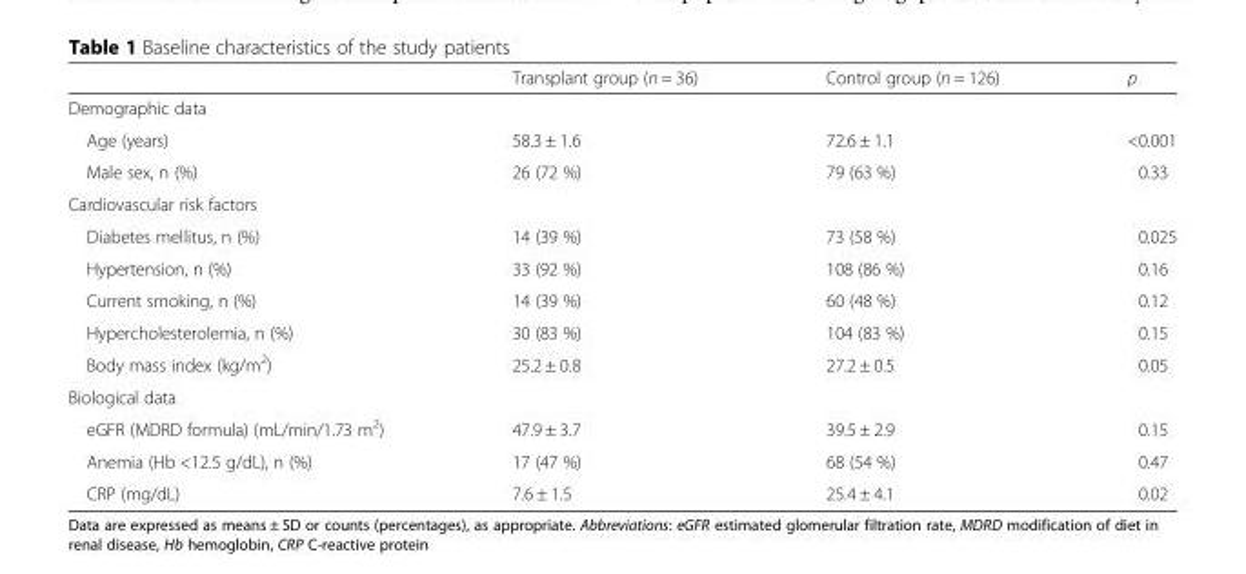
<table><thead><tr><td></td><td>Transplant group (n = 36)</td><td>Control group (n = 126)</td><td>p</td></tr></thead><tbody><tr><td colspan="4">Demographic data</td></tr><tr><td>Age (years)</td><td>58.3 ± 1.6</td><td>72.6 ± 1.1</td><td>&lt;0.001</td></tr><tr><td>Male sex, n (%)</td><td>26 (72 %)</td><td>79 (63 %)</td><td>0.33</td></tr><tr><td colspan="4">Cardiovascular risk factors</td></tr><tr><td>Diabetes mellitus, n (%)</td><td>14 (39 %)</td><td>73 (58 %)</td><td>0.025</td></tr><tr><td>Hypertension, n (%)</td><td>33 (92 %)</td><td>108 (86 %)</td><td>0.16</td></tr><tr><td>Current smoking, n (%)</td><td>14 (39 %)</td><td>60 (48 %)</td><td>0.12</td></tr><tr><td>Hypercholesterolemia, n (%)</td><td>30 (83 %)</td><td>104 (83 %)</td><td>0.15</td></tr><tr><td>Body mass index (kg/m<sup>2</sup>)</td><td>25.2 ± 0.8</td><td>27.2 ± 0.5</td><td>0.05</td></tr><tr><td colspan="4">Biological data</td></tr><tr><td>eGFR (MDRD formula) (mL/min/1.73 m<sup>2</sup>)</td><td>47.9 ± 3.7</td><td>39.5 ± 2.9</td><td>0.15</td></tr><tr><td>Anemia (Hb &lt;12.5 g/dL), n (%)</td><td>17 (47 %)</td><td>68 (54 %)</td><td>0.47</td></tr><tr><td>CRP (mg/dL)</td><td>7.6 ± 1.5</td><td>25.4 ± 4.1</td><td>0.02</td></tr></tbody></table>